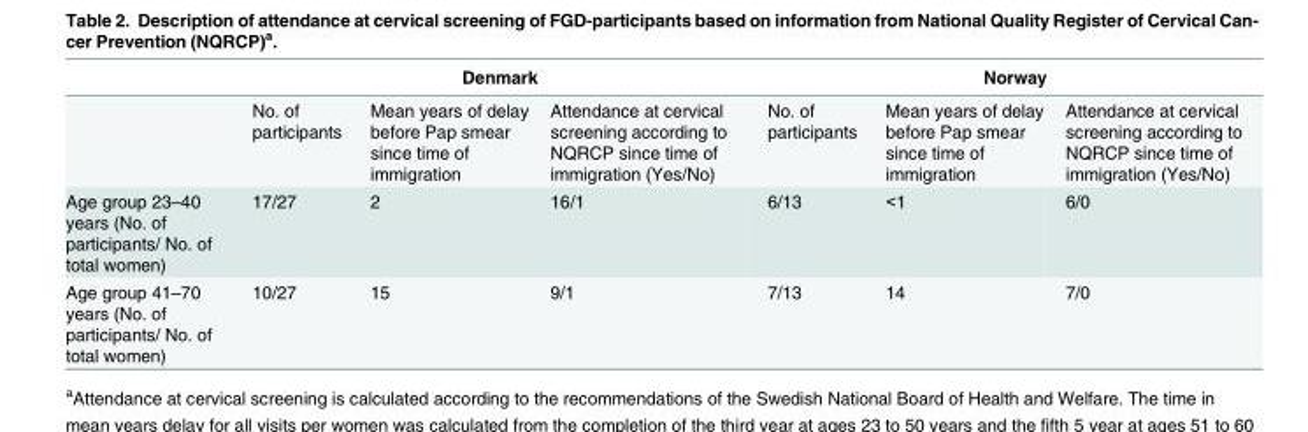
<table><thead><tr><td rowspan="2"></td><td colspan="3">Denmark</td><td colspan="3">Norway</td></tr><tr><td>No. of participants</td><td>Mean years of delay before Pap smear since time of immigration</td><td>Attendance at cervical screening according to NQRCP since time of immigration (Yes/No)</td><td>No. of participants</td><td>Mean years of delay before Pap smear since time of immigration</td><td>Attendance at cervical screening according to NQRCP since time of immigration (Yes/No)</td></tr></thead><tbody><tr><td>Age group 23–40 years (No. of participants/ No. of total women)</td><td>17/27</td><td>2</td><td>16/1</td><td>6/13</td><td>&lt;1</td><td>6/0</td></tr><tr><td>Age group 41–70 years (No. of participants/ No. of total women)</td><td>10/27</td><td>15</td><td>9/1</td><td>7/13</td><td>14</td><td>7/0</td></tr></tbody></table>